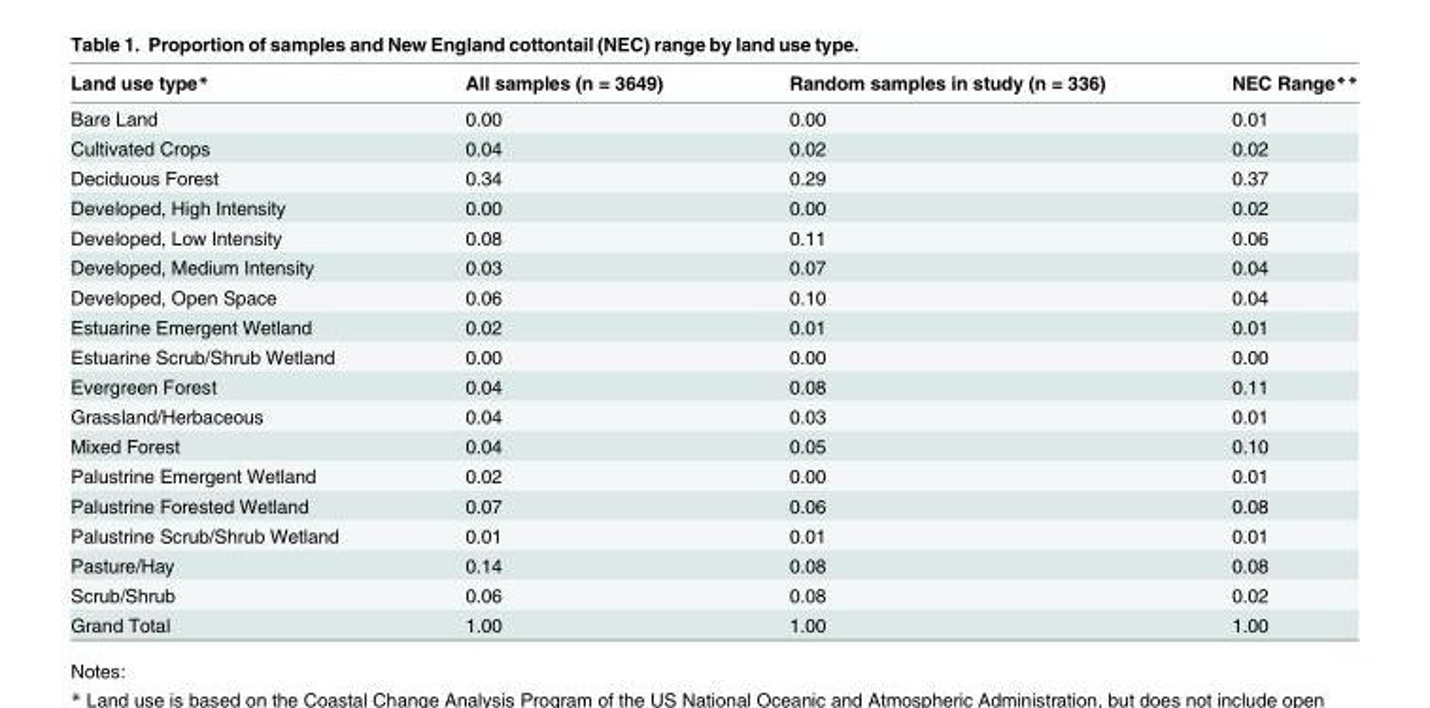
<table><thead><tr><td>Land use type*</td><td>All samples (n = 3649)</td><td>Random samples in study (n = 336)</td><td>NEC Range**</td></tr></thead><tbody><tr><td>Bare Land</td><td>0.00</td><td>0.00</td><td>0.01</td></tr><tr><td>Cultivated Crops</td><td>0.04</td><td>0.02</td><td>0.02</td></tr><tr><td>Deciduous Forest</td><td>0.34</td><td>0.29</td><td>0.37</td></tr><tr><td>Developed, High Intensity</td><td>0.00</td><td>0.00</td><td>0.02</td></tr><tr><td>Developed, Low Intensity</td><td>0.08</td><td>0.11</td><td>0.06</td></tr><tr><td>Developed, Medium Intensity</td><td>0.03</td><td>0.07</td><td>0.04</td></tr><tr><td>Developed, Open Space</td><td>0.06</td><td>0.10</td><td>0.04</td></tr><tr><td>Estuarine Emergent Wetland</td><td>0.02</td><td>0.01</td><td>0.01</td></tr><tr><td>Estuarine Scrub/Shrub Wetland</td><td>0.00</td><td>0.00</td><td>0.00</td></tr><tr><td>Evergreen Forest</td><td>0.04</td><td>0.08</td><td>0.11</td></tr><tr><td>Grassland/Herbaceous</td><td>0.04</td><td>0.03</td><td>0.01</td></tr><tr><td>Mixed Forest</td><td>0.04</td><td>0.05</td><td>0.10</td></tr><tr><td>Palustrine Emergent Wetland</td><td>0.02</td><td>0.00</td><td>0.01</td></tr><tr><td>Palustrine Forested Wetland</td><td>0.07</td><td>0.06</td><td>0.08</td></tr><tr><td>Palustrine Scrub/Shrub Wetland</td><td>0.01</td><td>0.01</td><td>0.01</td></tr><tr><td>Pasture/Hay</td><td>0.14</td><td>0.08</td><td>0.08</td></tr><tr><td>Scrub/Shrub</td><td>0.06</td><td>0.08</td><td>0.02</td></tr><tr><td>Grand Total</td><td>1.00</td><td>1.00</td><td>1.00</td></tr></tbody></table>